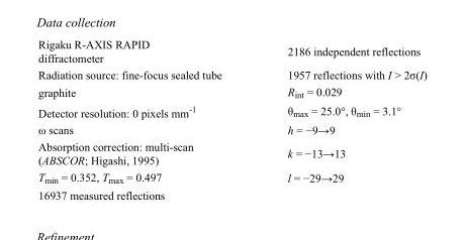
<table><tbody><tr><td>Rigaku R-AXIS RAPID diffractometer</td><td>2186 independent reflections</td></tr><tr><td>Radiation source: fine-focus sealed tube</td><td>1957 reflections with I &gt; 2σ(I)</td></tr><tr><td>graphite</td><td>R<sub>int</sub> = 0.029</td></tr><tr><td>Detector resolution: 0 pixels mm<sup>-1</sup></td><td>θ<sub>max</sub> = 25.0°, θ<sub>min</sub> = 3.1°</td></tr><tr><td>ω scans</td><td>h = −9→9</td></tr><tr><td>Absorption correction: multi-scan (ABSCOR; Higashi, 1995)</td><td>k = −13→13</td></tr><tr><td>T<sub>min</sub> = 0.352, T<sub>max</sub> = 0.497</td><td>l = −29→29</td></tr><tr><td>16937 measured reflections</td><td></td></tr></tbody></table>